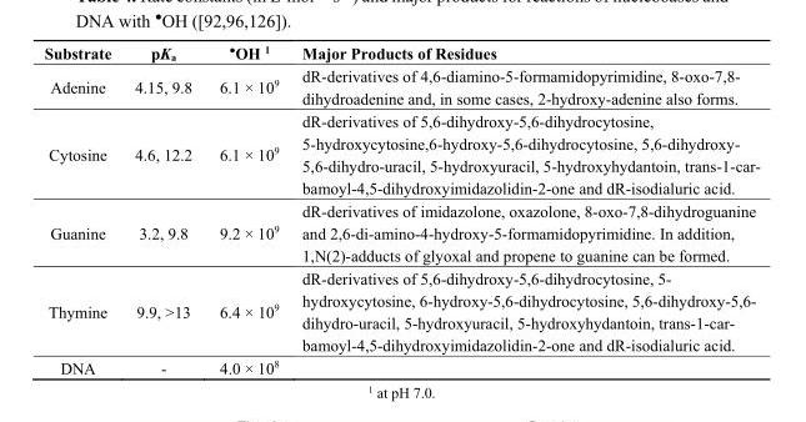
<table><thead><tr><td>Substrate</td><td>pK<sub>a</sub></td><td><sup>●</sup>OH <sup>1</sup></td><td>Major Products of Residues</td></tr></thead><tbody><tr><td>Adenine</td><td>4.15, 9.8</td><td>6.1 × 10<sup>9</sup></td><td>dR-derivatives of 4,6-diamino-5-formamidopyrimidine, 8-oxo-7,8- dihydroadenine and, in some cases, 2-hydroxy-adenine also forms.</td></tr><tr><td>Cytosine</td><td>4.6, 12.2</td><td>6.1 × 10<sup>9</sup></td><td>dR-derivatives of 5,6-dihydroxy-5,6-dihydrocytosine, 5-hydroxycytosine,6-hydroxy-5,6-dihydrocytosine, 5,6-dihydroxy- 5,6-dihydro-uracil, 5-hydroxyuracil, 5-hydroxyhydantoin, trans-1-car- bamoyl-4,5-dihydroxyimidazolidin-2-one and dR-isodialuric acid.</td></tr><tr><td>Guanine</td><td>3.2, 9.8</td><td>9.2 × 10<sup>9</sup></td><td>dR-derivatives of imidazolone, oxazolone, 8-oxo-7,8-dihydroguanine and 2,6-di-amino-4-hydroxy-5-formamidopyrimidine. In addition, 1,N(2)-adducts of glyoxal and propene to guanine can be formed.</td></tr><tr><td>Thymine</td><td>9.9, &gt;13</td><td>6.4 × 10<sup>9</sup></td><td>dR-derivatives of 5,6-dihydroxy-5,6-dihydrocytosine, 5- hydroxycytosine, 6-hydroxy-5,6-dihydrocytosine, 5,6-dihydroxy-5,6- dihydro-uracil, 5-hydroxyuracil, 5-hydroxyhydantoin, trans-1-car- bamoyl-4,5-dihydroxyimidazolidin-2-one and dR-isodialuric acid.</td></tr><tr><td>DNA</td><td>-</td><td>4.0 × 10<sup>8</sup></td><td></td></tr></tbody></table>